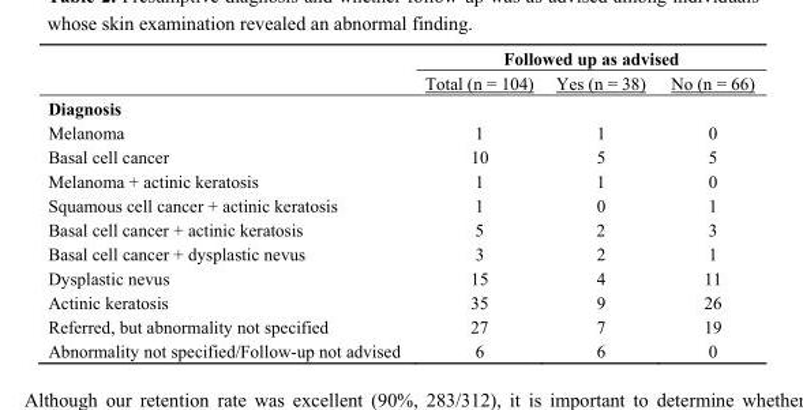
<table><thead><tr><td rowspan="2"></td><td colspan="3">Followed up as advised</td></tr><tr><td>Total (n = 104)</td><td>Yes (n = 38)</td><td>No (n = 66)</td></tr></thead><tbody><tr><td colspan="4">Diagnosis</td></tr><tr><td>Melanoma</td><td>1</td><td>1</td><td>0</td></tr><tr><td>Basal cell cancer</td><td>10</td><td>5</td><td>5</td></tr><tr><td>Melanoma + actinic keratosis</td><td>1</td><td>1</td><td>0</td></tr><tr><td>Squamous cell cancer + actinic keratosis</td><td>1</td><td>0</td><td>1</td></tr><tr><td>Basal cell cancer + actinic keratosis</td><td>5</td><td>2</td><td>3</td></tr><tr><td>Basal cell cancer + dysplastic nevus</td><td>3</td><td>2</td><td>1</td></tr><tr><td>Dysplastic nevus</td><td>15</td><td>4</td><td>11</td></tr><tr><td>Actinic keratosis</td><td>35</td><td>9</td><td>26</td></tr><tr><td>Referred, but abnormality not specified</td><td>27</td><td>7</td><td>19</td></tr><tr><td>Abnormality not specified/Follow-up not advised</td><td>6</td><td>6</td><td>0</td></tr></tbody></table>